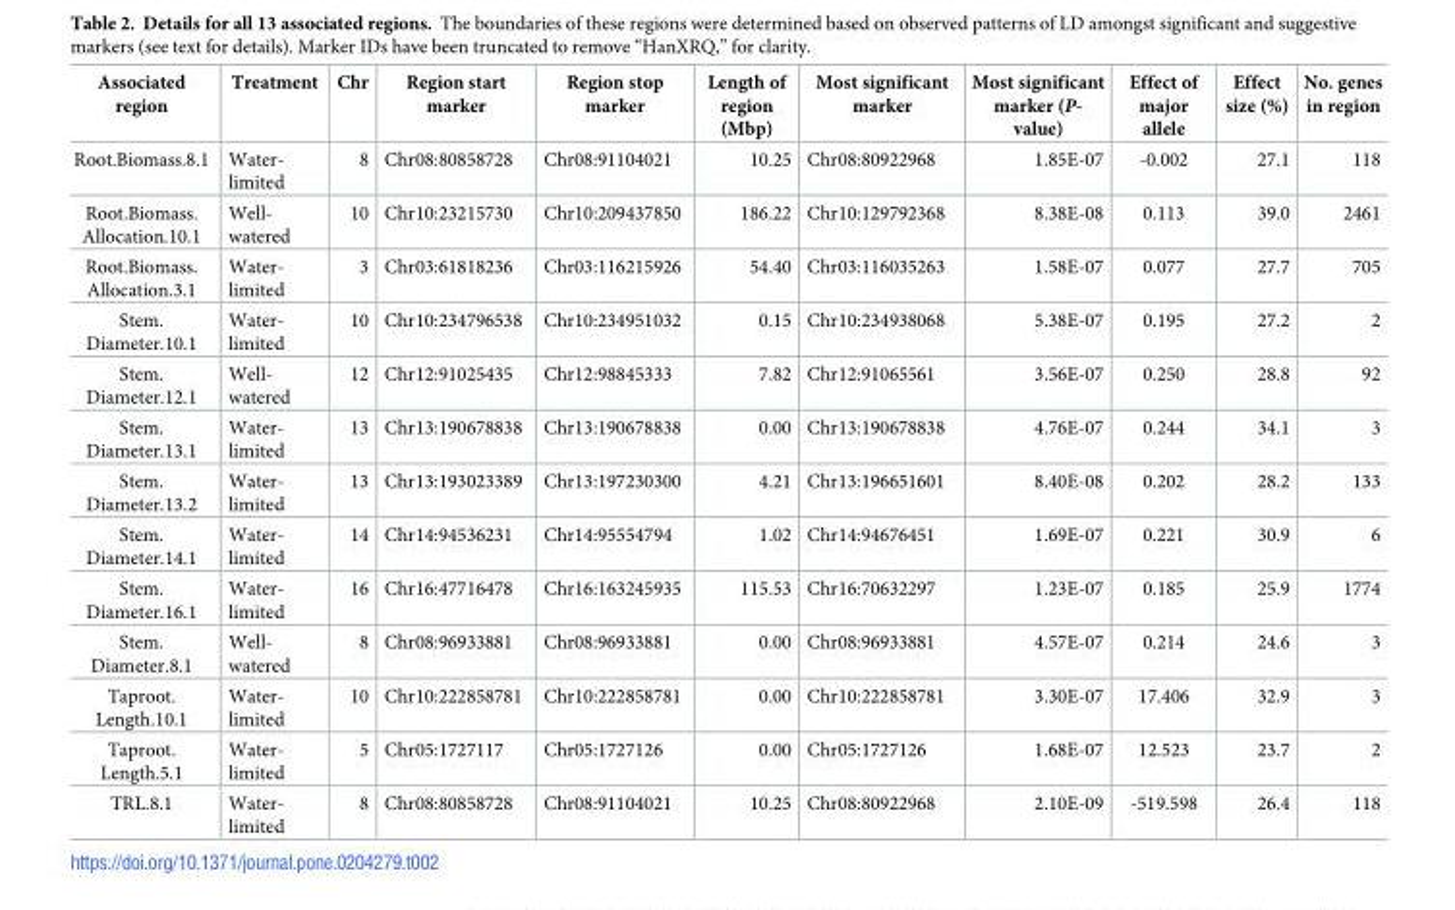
<table><thead><tr><td>Associated region</td><td>Treatment</td><td>Chr</td><td>Region start marker</td><td>Region stop marker</td><td>Length of region (Mbp)</td><td>Most significant marker</td><td>Most significant marker (P- value)</td><td>Effect of major allele</td><td>Effect size (%)</td><td>No. genes in region</td></tr></thead><tbody><tr><td>Root.Biomass.8.1</td><td>Water- limited</td><td>8</td><td>Chr08:80858728</td><td>Chr08:91104021</td><td>10.25</td><td>Chr08:80922968</td><td>1.85E-07</td><td>-0.002</td><td>27.1</td><td>118</td></tr><tr><td>Root.Biomass. Allocation.10.1</td><td>Well- watered</td><td>10</td><td>Chr10:23215730</td><td>Chr10:209437850</td><td>186.22</td><td>Chr10:129792368</td><td>8.38E-08</td><td>0.113</td><td>39.0</td><td>2461</td></tr><tr><td>Root.Biomass. Allocation.3.1</td><td>Water- limited</td><td>3</td><td>Chr03:61818236</td><td>Chr03:116215926</td><td>54.40</td><td>Chr03:116035263</td><td>1.58E-07</td><td>0.077</td><td>27.7</td><td>705</td></tr><tr><td>Stem. Diameter.10.1</td><td>Water- limited</td><td>10</td><td>Chr10:234796538</td><td>Chr10:234951032</td><td>0.15</td><td>Chr10:234938068</td><td>5.38E-07</td><td>0.195</td><td>27.2</td><td>2</td></tr><tr><td>Stem. Diameter.12.1</td><td>Well- watered</td><td>12</td><td>Chr12:91025435</td><td>Chr12:98845333</td><td>7.82</td><td>Chr12:91065561</td><td>3.56E-07</td><td>0.250</td><td>28.8</td><td>92</td></tr><tr><td>Stem. Diameter.13.1</td><td>Water- limited</td><td>13</td><td>Chr13:190678838</td><td>Chr13:190678838</td><td>0.00</td><td>Chr13:190678838</td><td>4.76E-07</td><td>0.244</td><td>34.1</td><td>3</td></tr><tr><td>Stem. Diameter.13.2</td><td>Water- limited</td><td>13</td><td>Chr13:193023389</td><td>Chr13:197230300</td><td>4.21</td><td>Chr13:196651601</td><td>8.40E-08</td><td>0.202</td><td>28.2</td><td>133</td></tr><tr><td>Stem. Diameter.14.1</td><td>Water- limited</td><td>14</td><td>Chr14:94536231</td><td>Chr14:95554794</td><td>1.02</td><td>Chr14:94676451</td><td>1.69E-07</td><td>0.221</td><td>30.9</td><td>6</td></tr><tr><td>Stem. Diameter.16.1</td><td>Water- limited</td><td>16</td><td>Chr16:47716478</td><td>Chr16:163245935</td><td>115.53</td><td>Chr16:70632297</td><td>1.23E-07</td><td>0.185</td><td>25.9</td><td>1774</td></tr><tr><td>Stem. Diameter.8.1</td><td>Well- watered</td><td>8</td><td>Chr08:96933881</td><td>Chr08:96933881</td><td>0.00</td><td>Chr08:96933881</td><td>4.57E-07</td><td>0.214</td><td>24.6</td><td>3</td></tr><tr><td>Taproot. Length.10.1</td><td>Water- limited</td><td>10</td><td>Chr10:222858781</td><td>Chr10:222858781</td><td>0.00</td><td>Chr10:222858781</td><td>3.30E-07</td><td>17.406</td><td>32.9</td><td>3</td></tr><tr><td>Taproot. Length.5.1</td><td>Water- limited</td><td>5</td><td>Chr05:1727117</td><td>Chr05:1727126</td><td>0.00</td><td>Chr05:1727126</td><td>1.68E-07</td><td>12.523</td><td>23.7</td><td>2</td></tr><tr><td>TRL.8.1</td><td>Water- limited</td><td>8</td><td>Chr08:80858728</td><td>Chr08:91104021</td><td>10.25</td><td>Chr08:80922968</td><td>2.10E-09</td><td>-519.598</td><td>26.4</td><td>118</td></tr></tbody></table>